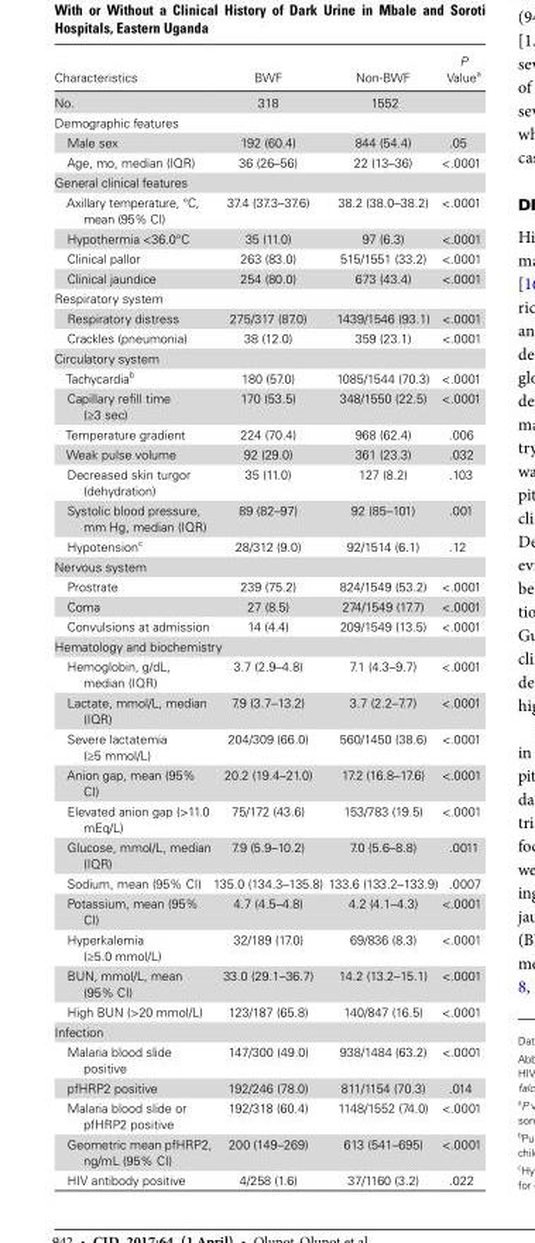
<table><thead><tr><td>Characteristics</td><td>BWF</td><td>Non-BWF</td><td>P Value<sup>a</sup></td></tr></thead><tbody><tr><td>No.</td><td>318</td><td>1552</td><td></td></tr><tr><td colspan="4">Demographic features</td></tr><tr><td>Male sex</td><td>192 (60.4)</td><td>844 (54.4)</td><td>.05</td></tr><tr><td>Age, mo, median (IQR)</td><td>36 (26–56)</td><td>22 (13–36)</td><td>&lt;.0001</td></tr><tr><td colspan="4">General clinical features</td></tr><tr><td>Axillary temperature, °C, mean (95% CI)</td><td>37.4 (37.3–37.6)</td><td>38.2 (38.0–38.2)</td><td>&lt;.0001</td></tr><tr><td>Hypothermia &lt;36.0°C</td><td>35 (11.0)</td><td>97 (6.3)</td><td>&lt;.0001</td></tr><tr><td>Clinical pallor</td><td>263 (83.0)</td><td>515/1551 (33.2)</td><td>&lt;.0001</td></tr><tr><td>Clinical jaundice</td><td>254 (80.0)</td><td>673 (43.4)</td><td>&lt;.0001</td></tr><tr><td colspan="4">Respiratory system</td></tr><tr><td>Respiratory distress</td><td>275/317 (87.0)</td><td>1439/1546 (93.1)</td><td>&lt;.0001</td></tr><tr><td>Crackles (pneumonia)</td><td>38 (12.0)</td><td>359 (23.1)</td><td>&lt;.0001</td></tr><tr><td colspan="4">Circulatory system</td></tr><tr><td>Tachycardia<sup>b</sup></td><td>180 (57.0)</td><td>1085/1544 (70.3)</td><td>&lt;.0001</td></tr><tr><td>Capillary refill time (≥3 sec)</td><td>170 (53.5)</td><td>348/1550 (22.5)</td><td>&lt;.0001</td></tr><tr><td>Temperature gradient</td><td>224 (70.4)</td><td>968 (62.4)</td><td>.006</td></tr><tr><td>Weak pulse volume</td><td>92 (29.0)</td><td>361 (23.3)</td><td>.032</td></tr><tr><td>Decreased skin turgor (dehydration)</td><td>35 (11.0)</td><td>127 (8.2)</td><td>.103</td></tr><tr><td>Systolic blood pressure, mm Hg, median (IQR)</td><td>89 (82–97)</td><td>92 (85–101)</td><td>.001</td></tr><tr><td>Hypotension<sup>c</sup></td><td>28/312 (9.0)</td><td>92/1514 (6.1)</td><td>.12</td></tr><tr><td colspan="4">Nervous system</td></tr><tr><td>Prostrate</td><td>239 (75.2)</td><td>824/1549 (53.2)</td><td>&lt;.0001</td></tr><tr><td>Coma</td><td>27 (8.5)</td><td>274/1549 (17.7)</td><td>&lt;.0001</td></tr><tr><td>Convulsions at admission</td><td>14 (4.4)</td><td>209/1549 (13.5)</td><td>&lt;.0001</td></tr><tr><td colspan="4">Hematology and biochemistry</td></tr><tr><td>Hemoglobin, g/dL, median (IQR)</td><td>3.7 (2.9–4.8)</td><td>7.1 (4.3–9.7)</td><td>&lt;.0001</td></tr><tr><td>Lactate, mmol/L, median (IQR)</td><td>7.9 (3.7–13.2)</td><td>3.7 (2.2–7.7)</td><td>&lt;.0001</td></tr><tr><td>Severe lactatemia (≥5 mmol/L)</td><td>204/309 (66.0)</td><td>560/1450 (38.6)</td><td>&lt;.0001</td></tr><tr><td>Anion gap, mean (95% CI)</td><td>20.2 (19.4–21.0)</td><td>17.2 (16.8–17.6)</td><td>&lt;.0001</td></tr><tr><td>Elevated anion gap (&gt;11.0 mEq/L)</td><td>75/172 (43.6)</td><td>153/783 (19.5)</td><td>&lt;.0001</td></tr><tr><td>Glucose, mmol/L, median (IQR)</td><td>7.9 (5.9–10.2)</td><td>7.0 (5.6–8.8)</td><td>.0011</td></tr><tr><td>Sodium, mean (95% CI)</td><td>135.0 (134.3–135.8)</td><td>133.6 (133.2–133.9)</td><td>.0007</td></tr><tr><td>Potassium, mean (95% CI)</td><td>4.7 (4.5–4.8)</td><td>4.2 (4.1–4.3)</td><td>&lt;.0001</td></tr><tr><td>Hyperkalemia (≥5.0 mmol/L)</td><td>32/189 (17.0)</td><td>69/836 (8.3)</td><td>&lt;.0001</td></tr><tr><td>BUN, mmol/L, mean (95% CI)</td><td>33.0 (29.1–36.7)</td><td>14.2 (13.2–15.1)</td><td>&lt;.0001</td></tr><tr><td>High BUN (&gt;20 mmol/L)</td><td>123/187 (65.8)</td><td>140/847 (16.5)</td><td>&lt;.0001</td></tr><tr><td colspan="4">Infection</td></tr><tr><td>Malaria blood slide positive</td><td>147/300 (49.0)</td><td>938/1484 (63.2)</td><td>&lt;.0001</td></tr><tr><td>pfHRP2 positive</td><td>192/246 (78.0)</td><td>811/1154 (70.3)</td><td>.014</td></tr><tr><td>Malaria blood slide or pfHRP2 positive</td><td>192/318 (60.4)</td><td>1148/1552 (74.0)</td><td>&lt;.0001</td></tr><tr><td>Geometric mean pfHRP2, ng/mL (95% CI)</td><td>200 (149–269)</td><td>613 (541–695)</td><td>&lt;.0001</td></tr><tr><td>HIV antibody positive</td><td>4/258 (1.6)</td><td>37/1160 (3.2)</td><td>.022</td></tr></tbody></table>